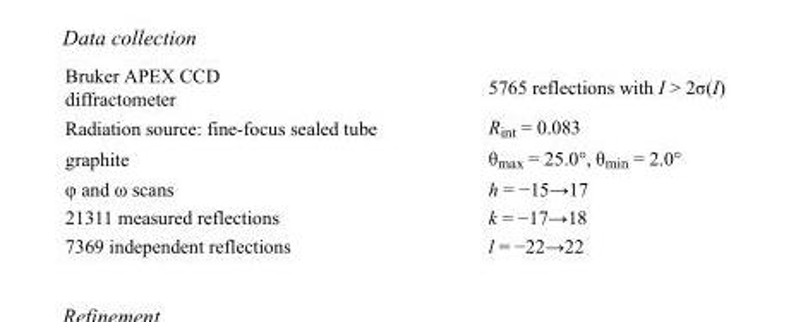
<table><tbody><tr><td>Bruker APEX CCD diffractometer</td><td>5765 reflections with I &gt; 2σ(I)</td></tr><tr><td>Radiation source: fine-focus sealed tube</td><td>R<sub>int</sub> = 0.083</td></tr><tr><td>graphite</td><td>θ<sub>max</sub> = 25.0°, θ<sub>min</sub> = 2.0°</td></tr><tr><td>φ and ω scans</td><td>h = −15→17</td></tr><tr><td>21311 measured reflections</td><td>k = −17→18</td></tr><tr><td>7369 independent reflections</td><td>l = −22→22</td></tr></tbody></table>